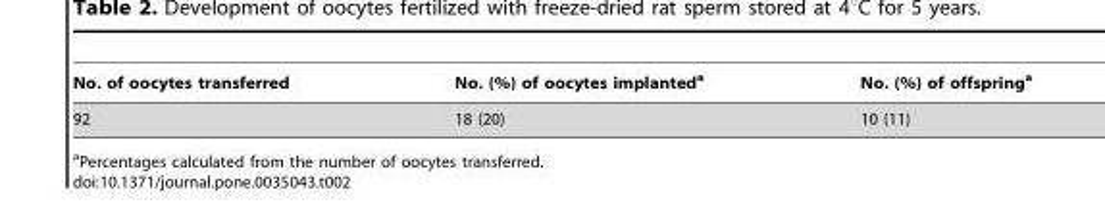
<table><thead><tr><td>No. of oocytes transferred</td><td>No. (%) of oocytes implanted<sup>a</sup></td><td>No. (%) of offspring<sup>a</sup></td></tr></thead><tbody><tr><td>92</td><td>18 (20)</td><td>10 (11)</td></tr></tbody></table>